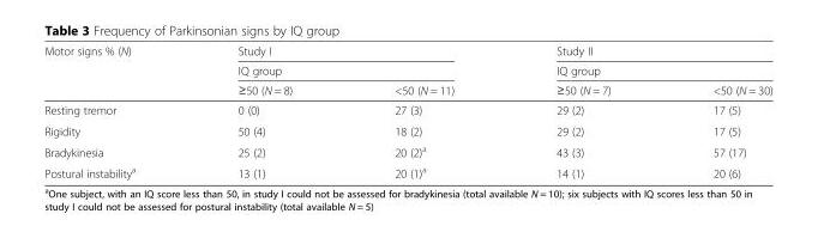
<table><thead><tr><td rowspan="3">Motor signs % (N)</td><td rowspan="2" colspan="2">Study I IQ group</td><td rowspan="2" colspan="2">Study II IQ group</td></tr><tr></tr><tr><td>≥50 (N = 8)</td><td>&lt;50 (N = 11)</td><td>≥50 (N = 7)</td><td>&lt;50 (N = 30)</td></tr></thead><tbody><tr><td>Resting tremor</td><td>0 (0)</td><td>27 (3)</td><td>29 (2)</td><td>17 (5)</td></tr><tr><td>Rigidity</td><td>50 (4)</td><td>18 (2)</td><td>29 (2)</td><td>17 (5)</td></tr><tr><td>Bradykinesia</td><td>25 (2)</td><td>20 (2)<sup>a</sup></td><td>43 (3)</td><td>57 (17)</td></tr><tr><td>Postural instability<sup>a</sup></td><td>13 (1)</td><td>20 (1)<sup>a</sup></td><td>14 (1)</td><td>20 (6)</td></tr></tbody></table>